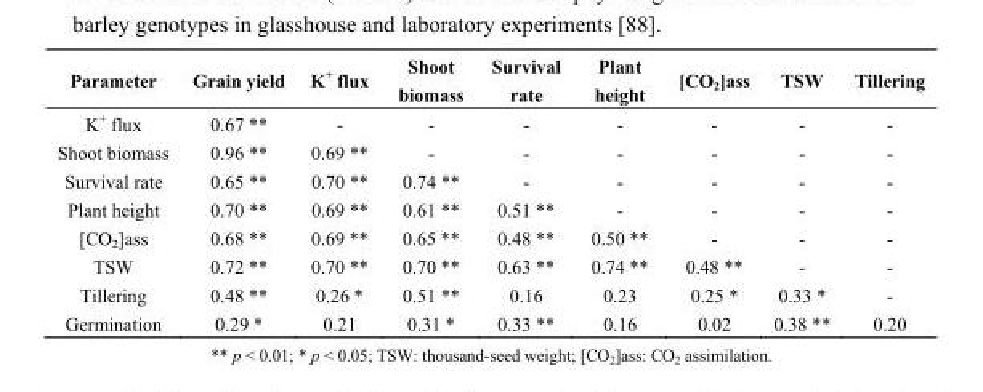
<table><thead><tr><td>Parameter</td><td>Grain yield</td><td>K<sup>+</sup> flux</td><td>Shoot biomass</td><td>Survival rate</td><td>Plant height</td><td>[CO<sub>2</sub>]ass</td><td>TSW</td><td>Tillering</td></tr></thead><tbody><tr><td>K<sup>+</sup> flux</td><td>0.67 **</td><td>-</td><td>-</td><td>-</td><td>-</td><td>-</td><td>-</td><td>-</td></tr><tr><td>Shoot biomass</td><td>0.96 **</td><td>0.69 **</td><td>-</td><td>-</td><td>-</td><td>-</td><td>-</td><td>-</td></tr><tr><td>Survival rate</td><td>0.65 **</td><td>0.70 **</td><td>0.74 **</td><td>-</td><td>-</td><td>-</td><td>-</td><td>-</td></tr><tr><td>Plant height</td><td>0.70 **</td><td>0.69 **</td><td>0.61 **</td><td>0.51 **</td><td>-</td><td>-</td><td>-</td><td>-</td></tr><tr><td>[CO<sub>2</sub>]ass</td><td>0.68 **</td><td>0.69 **</td><td>0.65 **</td><td>0.48 **</td><td>0.50 **</td><td>-</td><td>-</td><td>-</td></tr><tr><td>TSW</td><td>0.72 **</td><td>0.70 **</td><td>0.70 **</td><td>0.63 **</td><td>0.74 **</td><td>0.48 **</td><td>-</td><td>-</td></tr><tr><td>Tillering</td><td>0.48 **</td><td>0.26 *</td><td>0.51 **</td><td>0.16</td><td>0.23</td><td>0.25 *</td><td>0.33 *</td><td>-</td></tr><tr><td>Germination</td><td>0.29 *</td><td>0.21</td><td>0.31 *</td><td>0.33 **</td><td>0.16</td><td>0.02</td><td>0.38 **</td><td>0.20</td></tr></tbody></table>